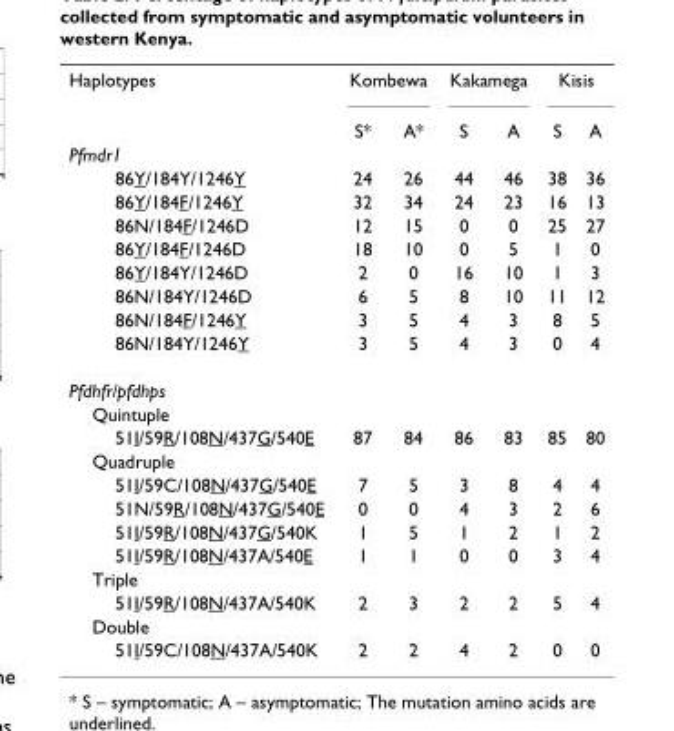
<table><tbody><tr><td rowspan="2">Haplotypes</td><td colspan="2">Kombewa</td><td colspan="2">Kakamega</td><td colspan="2">Kisis</td></tr><tr><td>S*</td><td>A*</td><td>S</td><td>A</td><td>S</td><td>A</td></tr><tr><td colspan="7">Pfmdr1</td></tr><tr><td>86Y/184Y/1246Y</td><td>24</td><td>26</td><td>44</td><td>46</td><td>38</td><td>36</td></tr><tr><td>86Y/184F/1246Y</td><td>32</td><td>34</td><td>24</td><td>23</td><td>16</td><td>13</td></tr><tr><td>86N/184F/1246D</td><td>12</td><td>15</td><td>0</td><td>0</td><td>25</td><td>27</td></tr><tr><td>86Y/184F/1246D</td><td>18</td><td>10</td><td>0</td><td>5</td><td>1</td><td>0</td></tr><tr><td>86Y/184Y/1246D</td><td>2</td><td>0</td><td>16</td><td>10</td><td>1</td><td>3</td></tr><tr><td>86N/184Y/1246D</td><td>6</td><td>5</td><td>8</td><td>10</td><td>11</td><td>12</td></tr><tr><td>86N/184F/1246Y</td><td>3</td><td>5</td><td>4</td><td>3</td><td>8</td><td>5</td></tr><tr><td>86N/184Y/1246Y</td><td>3</td><td>5</td><td>4</td><td>3</td><td>0</td><td>4</td></tr><tr><td colspan="7">Pfdhfr/pfdhps</td></tr><tr><td colspan="7">Quintuple</td></tr><tr><td>51I/59R/108N/437G/540E</td><td>87</td><td>84</td><td>86</td><td>83</td><td>85</td><td>80</td></tr><tr><td colspan="7">Quadruple</td></tr><tr><td>51I/59C/108N/437G/540E</td><td>7</td><td>5</td><td>3</td><td>8</td><td>4</td><td>4</td></tr><tr><td>51N/59R/108N/437G/540E</td><td>0</td><td>0</td><td>4</td><td>3</td><td>2</td><td>6</td></tr><tr><td>51I/59R/108N/437G/540K</td><td>1</td><td>5</td><td>1</td><td>2</td><td>1</td><td>2</td></tr><tr><td>51I/59R/108N/437A/540E</td><td>1</td><td>1</td><td>0</td><td>0</td><td>3</td><td>4</td></tr><tr><td colspan="7">Triple</td></tr><tr><td>51I/59R/108N/437A/540K</td><td>2</td><td>3</td><td>2</td><td>2</td><td>5</td><td>4</td></tr><tr><td colspan="7">Double</td></tr><tr><td>51I/59C/108N/437A/540K</td><td>2</td><td>2</td><td>4</td><td>2</td><td>0</td><td>0</td></tr></tbody></table>